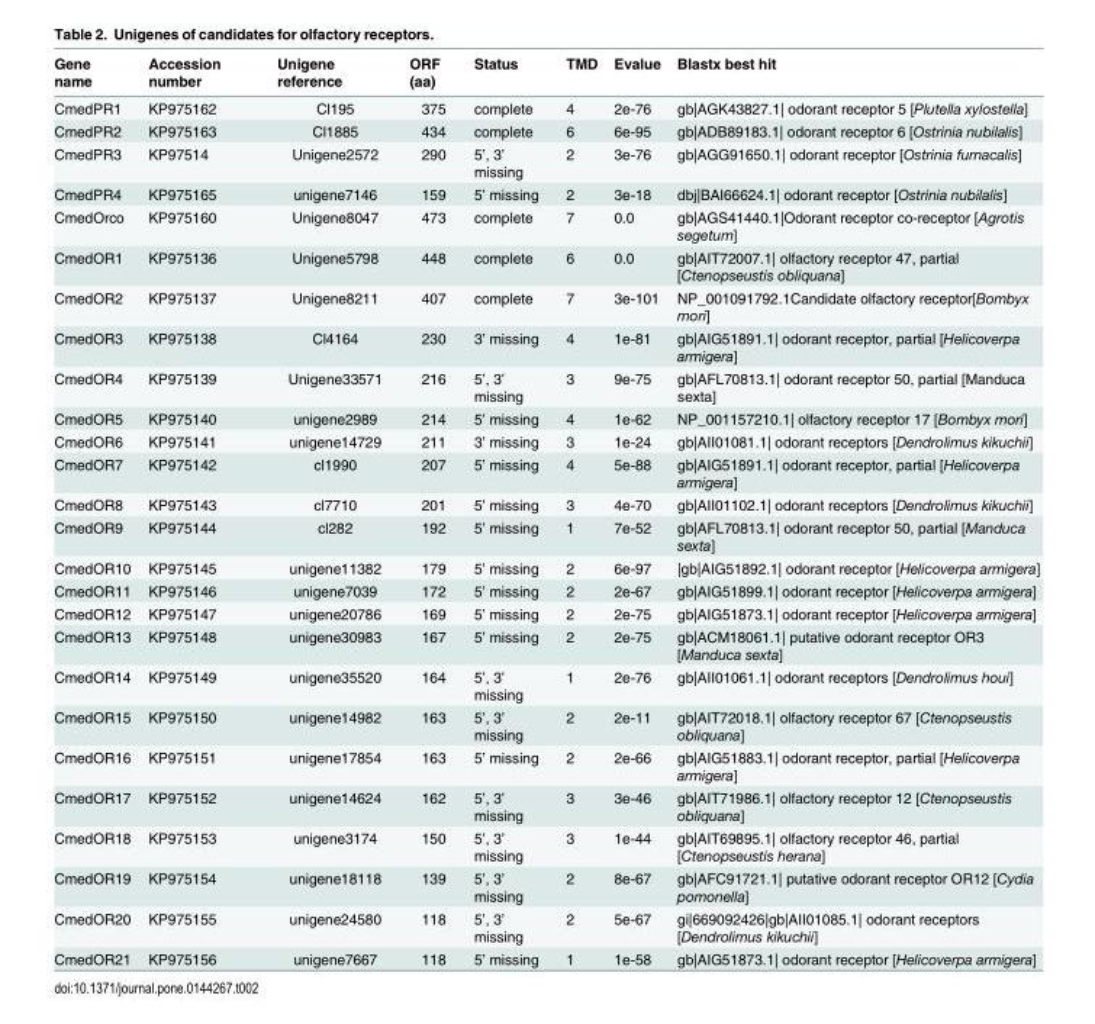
<table><thead><tr><td>Gene name</td><td>Accession number</td><td>Unigene reference</td><td>ORF (aa)</td><td>Status</td><td>TMD</td><td>Evalue</td><td>Blastx best hit</td></tr></thead><tbody><tr><td>CmedPR1</td><td>KP975162</td><td>Cl195</td><td>375</td><td>complete</td><td>4</td><td>2e-76</td><td>gb|AGK43827.1| odorant receptor 5 [Plutella xylostella]</td></tr><tr><td>CmedPR2</td><td>KP975163</td><td>Cl1885</td><td>434</td><td>complete</td><td>6</td><td>6e-95</td><td>gb|ADB89183.1| odorant receptor 6 [Ostrinia nubilalis]</td></tr><tr><td>CmedPR3</td><td>KP97514</td><td>Unigene2572</td><td>290</td><td>5’, 3’ missing</td><td>2</td><td>3e-76</td><td>gb|AGG91650.1| odorant receptor [Ostrinia furnacalis]</td></tr><tr><td>CmedPR4</td><td>KP975165</td><td>unigene7146</td><td>159</td><td>5’ missing</td><td>2</td><td>3e-18</td><td>dbj|BAI66624.1| odorant receptor [Ostrinia nubilalis]</td></tr><tr><td>CmedOrco</td><td>KP975160</td><td>Unigene8047</td><td>473</td><td>complete</td><td>7</td><td>0.0</td><td>gb|AGS41440.1|Odorant receptor co-receptor [Agrotis segetum]</td></tr><tr><td>CmedOR1</td><td>KP975136</td><td>Unigene5798</td><td>448</td><td>complete</td><td>6</td><td>0.0</td><td>gb|AIT72007.1| olfactory receptor 47, partial [Ctenopseustis obliquana]</td></tr><tr><td>CmedOR2</td><td>KP975137</td><td>Unigene8211</td><td>407</td><td>complete</td><td>7</td><td>3e-101</td><td>NP_001091792.1Candidate olfactory receptor[Bombyx mori]</td></tr><tr><td>CmedOR3</td><td>KP975138</td><td>Cl4164</td><td>230</td><td>3’ missing</td><td>4</td><td>1e-81</td><td>gb|AIG51891.1| odorant receptor, partial [Helicoverpa armigera]</td></tr><tr><td>CmedOR4</td><td>KP975139</td><td>Unigene33571</td><td>216</td><td>5’, 3’ missing</td><td>3</td><td>9e-75</td><td>gb|AFL70813.1| odorant receptor 50, partial [Manduca sexta]</td></tr><tr><td>CmedOR5</td><td>KP975140</td><td>unigene2989</td><td>214</td><td>5’ missing</td><td>4</td><td>1e-62</td><td>NP_001157210.1| olfactory receptor 17 [Bombyx mori]</td></tr><tr><td>CmedOR6</td><td>KP975141</td><td>unigene14729</td><td>211</td><td>3’ missing</td><td>3</td><td>1e-24</td><td>gb|AII01081.1| odorant receptors [Dendrolimus kikuchii]</td></tr><tr><td>CmedOR7</td><td>KP975142</td><td>cl1990</td><td>207</td><td>5’ missing</td><td>4</td><td>5e-88</td><td>gb|AIG51891.1| odorant receptor, partial [Helicoverpa armigera]</td></tr><tr><td>CmedOR8</td><td>KP975143</td><td>cl7710</td><td>201</td><td>5’ missing</td><td>3</td><td>4e-70</td><td>gb|AII01102.1| odorant receptors [Dendrolimus kikuchii]</td></tr><tr><td>CmedOR9</td><td>KP975144</td><td>cl282</td><td>192</td><td>5’ missing</td><td>1</td><td>7e-52</td><td>gb|AFL70813.1| odorant receptor 50, partial [Manduca sexta]</td></tr><tr><td>CmedOR10</td><td>KP975145</td><td>unigene11382</td><td>179</td><td>5’ missing</td><td>2</td><td>6e-97</td><td>|gb|AIG51892.1| odorant receptor [Helicoverpa armigera]</td></tr><tr><td>CmedOR11</td><td>KP975146</td><td>unigene7039</td><td>172</td><td>5’ missing</td><td>2</td><td>2e-67</td><td>gb|AIG51899.1| odorant receptor [Helicoverpa armigera]</td></tr><tr><td>CmedOR12</td><td>KP975147</td><td>unigene20786</td><td>169</td><td>5’ missing</td><td>2</td><td>2e-75</td><td>gb|AIG51873.1| odorant receptor [Helicoverpa armigera]</td></tr><tr><td>CmedOR13</td><td>KP975148</td><td>unigene30983</td><td>167</td><td>5’ missing</td><td>2</td><td>2e-75</td><td>gb|ACM18061.1| putative odorant receptor OR3 [Manduca sexta]</td></tr><tr><td>CmedOR14</td><td>KP975149</td><td>unigene35520</td><td>164</td><td>5’, 3’ missing</td><td>1</td><td>2e-76</td><td>gb|AII01061.1| odorant receptors [Dendrolimus houi]</td></tr><tr><td>CmedOR15</td><td>KP975150</td><td>unigene14982</td><td>163</td><td>5’, 3’ missing</td><td>2</td><td>2e-11</td><td>gb|AIT72018.1| olfactory receptor 67 [Ctenopseustis obliquana]</td></tr><tr><td>CmedOR16</td><td>KP975151</td><td>unigene17854</td><td>163</td><td>5’ missing</td><td>2</td><td>2e-66</td><td>gb|AIG51883.1| odorant receptor, partial [Helicoverpa armigera]</td></tr><tr><td>CmedOR17</td><td>KP975152</td><td>unigene14624</td><td>162</td><td>5’, 3’ missing</td><td>3</td><td>3e-46</td><td>gb|AIT71986.1| olfactory receptor 12 [Ctenopseustis obliquana]</td></tr><tr><td>CmedOR18</td><td>KP975153</td><td>unigene3174</td><td>150</td><td>5’, 3’ missing</td><td>3</td><td>1e-44</td><td>gb|AIT69895.1| olfactory receptor 46, partial [Ctenopseustis herana]</td></tr><tr><td>CmedOR19</td><td>KP975154</td><td>unigene18118</td><td>139</td><td>5’, 3’ missing</td><td>2</td><td>8e-67</td><td>gb|AFC91721.1| putative odorant receptor OR12 [Cydia pomonella]</td></tr><tr><td>CmedOR20</td><td>KP975155</td><td>unigene24580</td><td>118</td><td>5’, 3’ missing</td><td>2</td><td>5e-67</td><td>gi|669092426|gb|AII01085.1| odorant receptors [Dendrolimus kikuchii]</td></tr><tr><td>CmedOR21</td><td>KP975156</td><td>unigene7667</td><td>118</td><td>5’ missing</td><td>1</td><td>1e-58</td><td>gb|AIG51873.1| odorant receptor [Helicoverpa armigera]</td></tr></tbody></table>